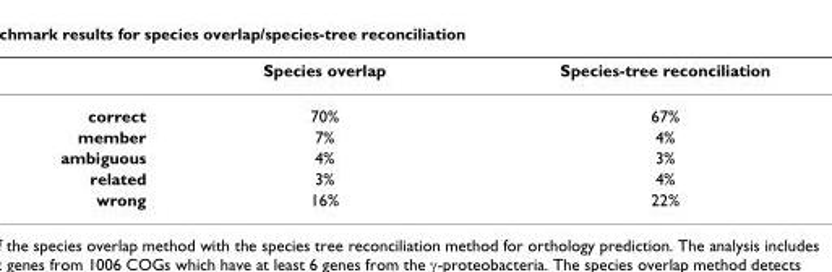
<table><thead><tr><td></td><td>Species overlap</td><td>Species-tree reconciliation</td></tr></thead><tbody><tr><td>correct</td><td>70%</td><td>67%</td></tr><tr><td>member</td><td>7%</td><td>4%</td></tr><tr><td>ambiguous</td><td>4%</td><td>3%</td></tr><tr><td>related</td><td>3%</td><td>4%</td></tr><tr><td>wrong</td><td>16%</td><td>22%</td></tr></tbody></table>